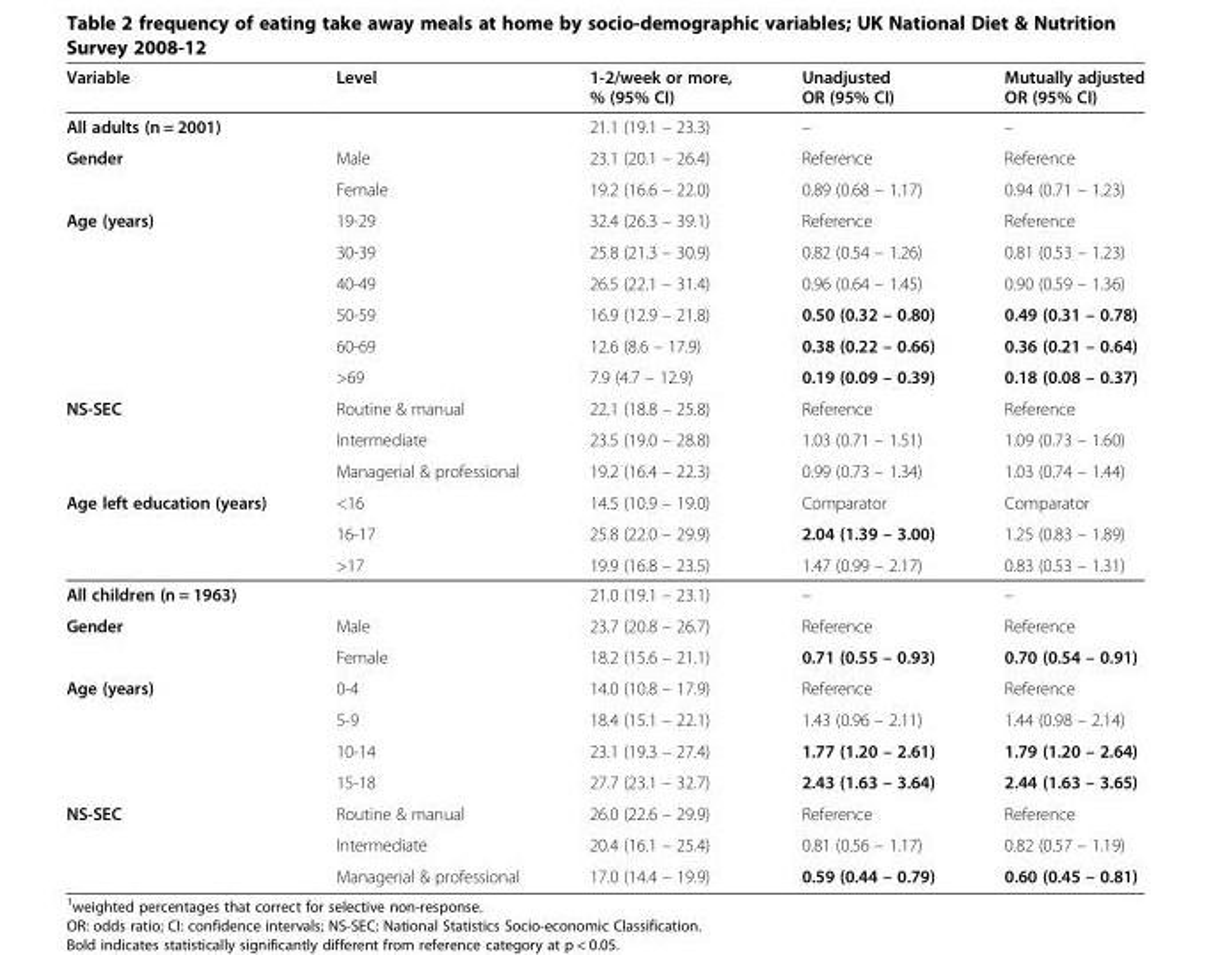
<table><thead><tr><td>Variable</td><td>Level</td><td>1-2/week or more, % (95% CI)</td><td>Unadjusted OR (95% CI)</td><td>Mutually adjusted OR (95% CI)</td></tr></thead><tbody><tr><td colspan="2">All adults (n = 2001)</td><td>21.1 (19.1 – 23.3)</td><td>–</td><td>–</td></tr><tr><td rowspan="2">Gender</td><td>Male</td><td>23.1 (20.1 – 26.4)</td><td>Reference</td><td>Reference</td></tr><tr><td>Female</td><td>19.2 (16.6 – 22.0)</td><td>0.89 (0.68 – 1.17)</td><td>0.94 (0.71 – 1.23)</td></tr><tr><td rowspan="6">Age (years)</td><td>19-29</td><td>32.4 (26.3 – 39.1)</td><td>Reference</td><td>Reference</td></tr><tr><td>30-39</td><td>25.8 (21.3 – 30.9)</td><td>0.82 (0.54 – 1.26)</td><td>0.81 (0.53 – 1.23)</td></tr><tr><td>40-49</td><td>26.5 (22.1 – 31.4)</td><td>0.96 (0.64 – 1.45)</td><td>0.90 (0.59 – 1.36)</td></tr><tr><td>50-59</td><td>16.9 (12.9 – 21.8)</td><td>0.50 (0.32 – 0.80)</td><td>0.49 (0.31 – 0.78)</td></tr><tr><td>60-69</td><td>12.6 (8.6 – 17.9)</td><td>0.38 (0.22 – 0.66)</td><td>0.36 (0.21 – 0.64)</td></tr><tr><td>&gt;69</td><td>7.9 (4.7 – 12.9)</td><td>0.19 (0.09 – 0.39)</td><td>0.18 (0.08 – 0.37)</td></tr><tr><td rowspan="3">NS-SEC</td><td>Routine &amp; manual</td><td>22.1 (18.8 – 25.8)</td><td>Reference</td><td>Reference</td></tr><tr><td>Intermediate</td><td>23.5 (19.0 – 28.8)</td><td>1.03 (0.71 – 1.51)</td><td>1.09 (0.73 – 1.60)</td></tr><tr><td>Managerial &amp; professional</td><td>19.2 (16.4 – 22.3)</td><td>0.99 (0.73 – 1.34)</td><td>1.03 (0.74 – 1.44)</td></tr><tr><td rowspan="3">Age left education (years)</td><td>&lt;16</td><td>14.5 (10.9 – 19.0)</td><td>Comparator</td><td>Comparator</td></tr><tr><td>16-17</td><td>25.8 (22.0 – 29.9)</td><td>2.04 (1.39 – 3.00)</td><td>1.25 (0.83 – 1.89)</td></tr><tr><td>&gt;17</td><td>19.9 (16.8 – 23.5)</td><td>1.47 (0.99 – 2.17)</td><td>0.83 (0.53 – 1.31)</td></tr><tr><td colspan="2">All children (n = 1963)</td><td>21.0 (19.1 – 23.1)</td><td>–</td><td>–</td></tr><tr><td rowspan="2">Gender</td><td>Male</td><td>23.7 (20.8 – 26.7)</td><td>Reference</td><td>Reference</td></tr><tr><td>Female</td><td>18.2 (15.6 – 21.1)</td><td>0.71 (0.55 – 0.93)</td><td>0.70 (0.54 – 0.91)</td></tr><tr><td rowspan="4">Age (years)</td><td>0-4</td><td>14.0 (10.8 – 17.9)</td><td>Reference</td><td>Reference</td></tr><tr><td>5-9</td><td>18.4 (15.1 – 22.1)</td><td>1.43 (0.96 – 2.11)</td><td>1.44 (0.98 – 2.14)</td></tr><tr><td>10-14</td><td>23.1 (19.3 – 27.4)</td><td>1.77 (1.20 – 2.61)</td><td>1.79 (1.20 – 2.64)</td></tr><tr><td>15-18</td><td>27.7 (23.1 – 32.7)</td><td>2.43 (1.63 – 3.64)</td><td>2.44 (1.63 – 3.65)</td></tr><tr><td rowspan="3">NS-SEC</td><td>Routine &amp; manual</td><td>26.0 (22.6 – 29.9)</td><td>Reference</td><td>Reference</td></tr><tr><td>Intermediate</td><td>20.4 (16.1 – 25.4)</td><td>0.81 (0.56 – 1.17)</td><td>0.82 (0.57 – 1.19)</td></tr><tr><td>Managerial &amp; professional</td><td>17.0 (14.4 – 19.9)</td><td>0.59 (0.44 – 0.79)</td><td>0.60 (0.45 – 0.81)</td></tr></tbody></table>